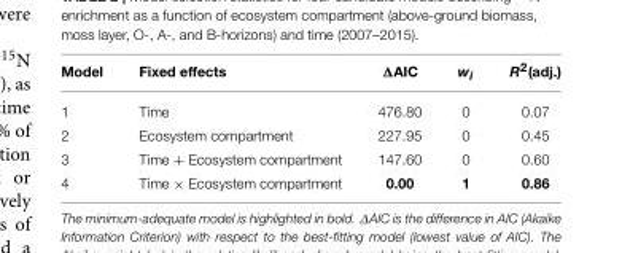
<table><thead><tr><td>Model</td><td>Fixed effects</td><td>ΔAIC</td><td>wi</td><td>R<sup>2</sup>(adj.)</td></tr></thead><tbody><tr><td>1</td><td>Time</td><td>476.80</td><td>0</td><td>0.07</td></tr><tr><td>2</td><td>Ecosystem compartment</td><td>227.95</td><td>0</td><td>0.45</td></tr><tr><td>3</td><td>Time + Ecosystem compartment</td><td>147.60</td><td>0</td><td>0.60</td></tr><tr><td>4</td><td>Time × Ecosystem compartment</td><td>0.00</td><td>1</td><td>0.86</td></tr></tbody></table>